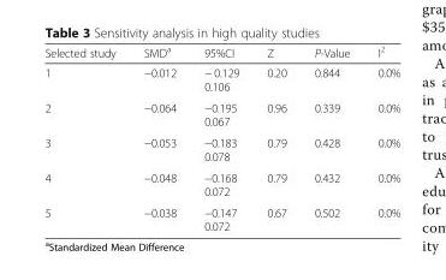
<table><thead><tr><td>Selected study</td><td>SMD<sup>a</sup></td><td>95%CI</td><td>Z</td><td>P-Value</td><td>I<sup>2</sup></td></tr></thead><tbody><tr><td>1</td><td>−0.012</td><td>− 0.129 0.106</td><td>0.20</td><td>0.844</td><td>0.0%</td></tr><tr><td>2</td><td>−0.064</td><td>−0.195 0.067</td><td>0.96</td><td>0.339</td><td>0.0%</td></tr><tr><td>3</td><td>−0.053</td><td>−0.183 0.078</td><td>0.79</td><td>0.428</td><td>0.0%</td></tr><tr><td>4</td><td>−0.048</td><td>−0.168 0.072</td><td>0.79</td><td>0.432</td><td>0.0%</td></tr><tr><td>5</td><td>−0.038</td><td>−0.147 0.072</td><td>0.67</td><td>0.502</td><td>0.0%</td></tr></tbody></table>